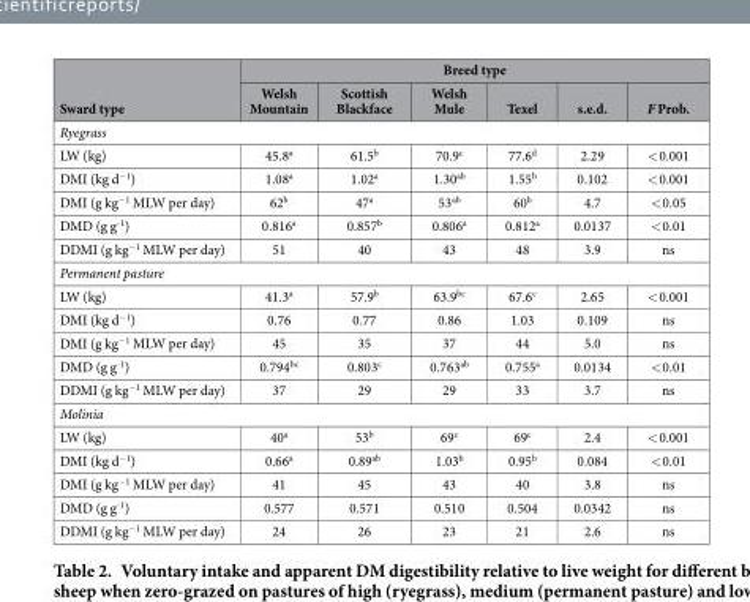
<table><thead><tr><td rowspan="2">Sward type</td><td colspan="6">Breed type</td></tr><tr><td>Welsh Mountain</td><td>Scottish Blackface</td><td>Welsh Mule</td><td>Texel</td><td>s.e.d.</td><td>F Prob.</td></tr></thead><tbody><tr><td colspan="7">Ryegrass</td></tr><tr><td>LW (kg)</td><td>45.8<sup>a</sup></td><td>61.5<sup>b</sup></td><td>70.9<sup>c</sup></td><td>77.6<sup>d</sup></td><td>2.29</td><td>&lt; 0.001</td></tr><tr><td>DMI (kg d<sup>−1</sup>)</td><td>1.08<sup>a</sup></td><td>1.02<sup>a</sup></td><td>1.30<sup>ab</sup></td><td>1.55<sup>b</sup></td><td>0.102</td><td>&lt; 0.001</td></tr><tr><td>DMI (g kg<sup>−1</sup> MLW per day)</td><td>62<sup>b</sup></td><td>47<sup>a</sup></td><td>53<sup>ab</sup></td><td>60<sup>b</sup></td><td>4.7</td><td>&lt; 0.05</td></tr><tr><td>DMD (g g<sup>-1</sup>)</td><td>0.816<sup>a</sup></td><td>0.857<sup>b</sup></td><td>0.806<sup>a</sup></td><td>0.812<sup>a</sup></td><td>0.0137</td><td>&lt; 0.01</td></tr><tr><td>DDMI (g kg<sup>−1</sup> MLW per day)</td><td>51</td><td>40</td><td>43</td><td>48</td><td>3.9</td><td>ns</td></tr><tr><td colspan="7">Permanent pasture</td></tr><tr><td>LW (kg)</td><td>41.3<sup>a</sup></td><td>57.9<sup>b</sup></td><td>63.9<sup>bc</sup></td><td>67.6<sup>c</sup></td><td>2.65</td><td>&lt; 0.001</td></tr><tr><td>DMI (kg d<sup>−1</sup>)</td><td>0.76</td><td>0.77</td><td>0.86</td><td>1.03</td><td>0.109</td><td>ns</td></tr><tr><td>DMI (g kg<sup>−1</sup> MLW per day)</td><td>45</td><td>35</td><td>37</td><td>44</td><td>5.0</td><td>ns</td></tr><tr><td>DMD (g g<sup>-1</sup>)</td><td>0.794<sup>bc</sup></td><td>0.803<sup>c</sup></td><td>0.763<sup>ab</sup></td><td>0.755<sup>a</sup></td><td>0.0134</td><td>&lt; 0.01</td></tr><tr><td>DDMI (g kg<sup>−1</sup> MLW per day)</td><td>37</td><td>29</td><td>29</td><td>33</td><td>3.7</td><td>ns</td></tr><tr><td colspan="7">Molinia</td></tr><tr><td>LW (kg)</td><td>40<sup>a</sup></td><td>53<sup>b</sup></td><td>69<sup>c</sup></td><td>69<sup>c</sup></td><td>2.4</td><td>&lt; 0.001</td></tr><tr><td>DMI (kg d<sup>−1</sup>)</td><td>0.66<sup>a</sup></td><td>0.89<sup>ab</sup></td><td>1.03<sup>b</sup></td><td>0.95<sup>b</sup></td><td>0.084</td><td>&lt; 0.01</td></tr><tr><td>DMI (g kg<sup>−1</sup> MLW per day)</td><td>41</td><td>45</td><td>43</td><td>40</td><td>3.8</td><td>ns</td></tr><tr><td>DMD (g g<sup>-1</sup>)</td><td>0.577</td><td>0.571</td><td>0.510</td><td>0.504</td><td>0.0342</td><td>ns</td></tr><tr><td>DDMI (g kg<sup>−1</sup> MLW per day)</td><td>24</td><td>26</td><td>23</td><td>21</td><td>2.6</td><td>ns</td></tr></tbody></table>